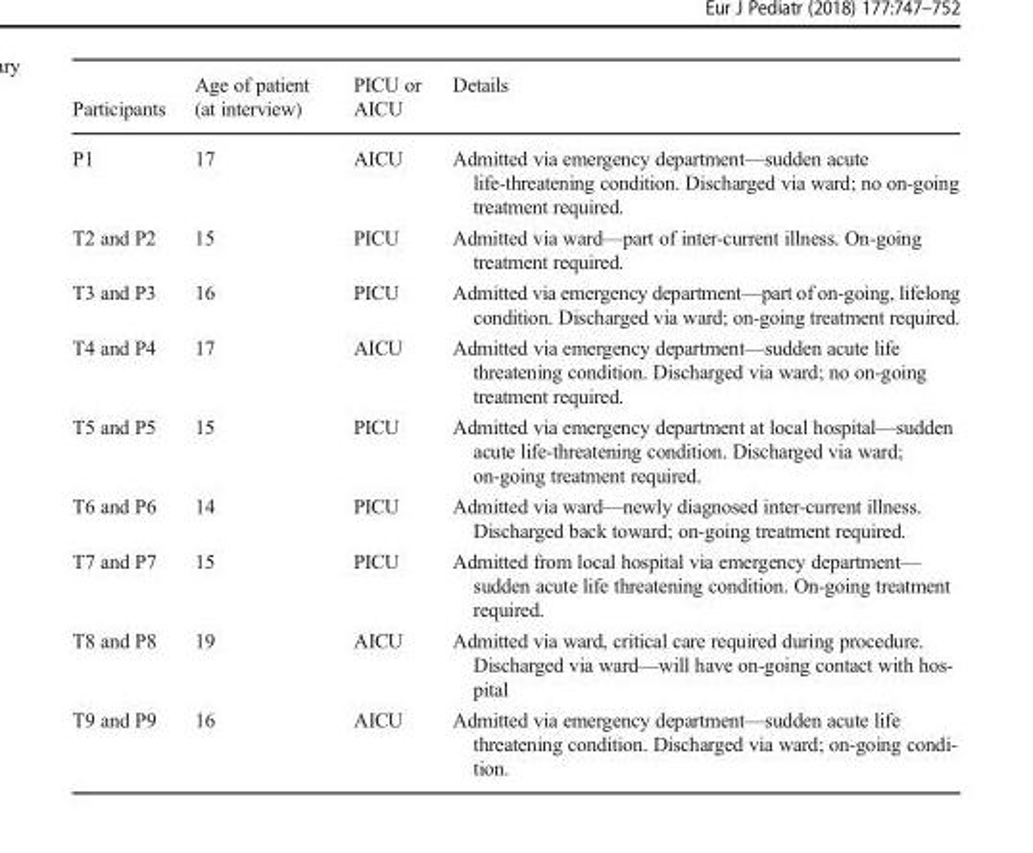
<table><thead><tr><td>Participants</td><td>Age of patient (at interview)</td><td>PICU or AICU</td><td>Details</td></tr></thead><tbody><tr><td>P1</td><td>17</td><td>AICU</td><td>Admitted via emergency department—sudden acute life-threatening condition. Discharged via ward; no on-going treatment required.</td></tr><tr><td>T2 and P2</td><td>15</td><td>PICU</td><td>Admitted via ward—part of inter-current illness. On-going treatment required.</td></tr><tr><td>T3 and P3</td><td>16</td><td>PICU</td><td>Admitted via emergency department—part of on-going, lifelong condition. Discharged via ward; on-going treatment required.</td></tr><tr><td>T4 and P4</td><td>17</td><td>AICU</td><td>Admitted via emergency department—sudden acute life threatening condition. Discharged via ward; no on-going treatment required.</td></tr><tr><td>T5 and P5</td><td>15</td><td>PICU</td><td>Admitted via emergency department at local hospital—sudden acute life-threatening condition. Discharged via ward; on-going treatment required.</td></tr><tr><td>T6 and P6</td><td>14</td><td>PICU</td><td>Admitted via ward—newly diagnosed inter-current illness. Discharged back toward; on-going treatment required.</td></tr><tr><td>T7 and P7</td><td>15</td><td>PICU</td><td>Admitted from local hospital via emergency department— sudden acute life threatening condition. On-going treatment required.</td></tr><tr><td>T8 and P8</td><td>19</td><td>AICU</td><td>Admitted via ward, critical care required during procedure. Discharged via ward—will have on-going contact with hos- pital</td></tr><tr><td>T9 and P9</td><td>16</td><td>AICU</td><td>Admitted via emergency department—sudden acute life threatening condition. Discharged via ward; on-going condi- tion.</td></tr></tbody></table>